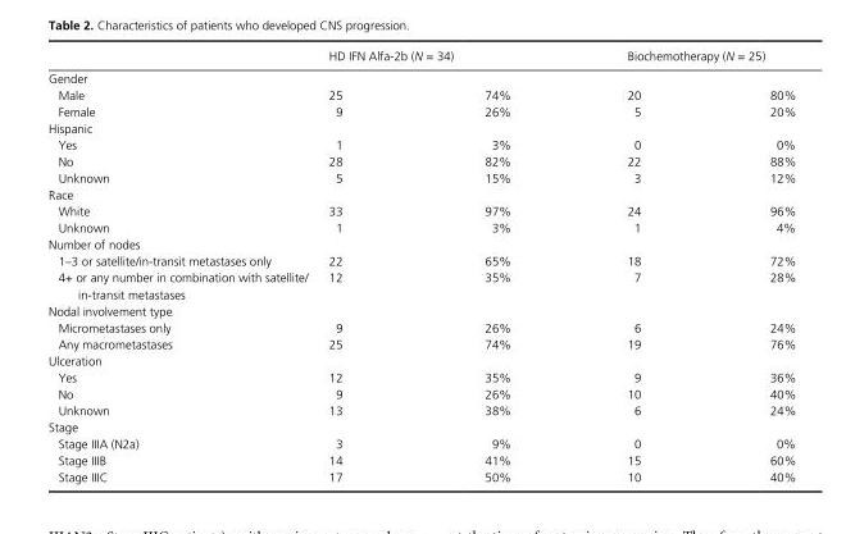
<table><thead><tr><td></td><td colspan="2">HD IFN Alfa- 2b (N = 34)</td><td colspan="2">Biochemotherapy (N = 25)</td></tr><tr><td colspan="5">Gender</td></tr><tr><td>Male</td><td>25</td><td>74%</td><td>20</td><td>80%</td></tr></thead><tbody><tr><td>Female</td><td>9</td><td>26%</td><td>5</td><td>20%</td></tr><tr><td colspan="5">Hispanic</td></tr><tr><td>Yes</td><td>1</td><td>3%</td><td>0</td><td>0%</td></tr><tr><td>No</td><td>28</td><td>82%</td><td>22</td><td>88%</td></tr><tr><td>Unknown</td><td>5</td><td>15%</td><td>3</td><td>12%</td></tr><tr><td colspan="5">Race</td></tr><tr><td>White</td><td>33</td><td>97%</td><td>24</td><td>96%</td></tr><tr><td>Unknown</td><td>1</td><td>3%</td><td>1</td><td>4%</td></tr><tr><td colspan="5">Number of nodes</td></tr><tr><td>1–3 or satellite/in- transit metastases only</td><td>22</td><td>65%</td><td>18</td><td>72%</td></tr><tr><td>4+ or any number in combination with satellite/ in- transit metastases</td><td>12</td><td>35%</td><td>7</td><td>28%</td></tr><tr><td colspan="5">Nodal involvement type</td></tr><tr><td>Micrometastases only</td><td>9</td><td>26%</td><td>6</td><td>24%</td></tr><tr><td>Any macrometastases</td><td>25</td><td>74%</td><td>19</td><td>76%</td></tr><tr><td colspan="5">Ulceration</td></tr><tr><td>Yes</td><td>12</td><td>35%</td><td>9</td><td>36%</td></tr><tr><td>No</td><td>9</td><td>26%</td><td>10</td><td>40%</td></tr><tr><td>Unknown</td><td>13</td><td>38%</td><td>6</td><td>24%</td></tr><tr><td colspan="5">Stage</td></tr><tr><td>Stage IIIA (N2a)</td><td>3</td><td>9%</td><td>0</td><td>0%</td></tr><tr><td>Stage IIIB</td><td>14</td><td>41%</td><td>15</td><td>60%</td></tr><tr><td>Stage IIIC</td><td>17</td><td>50%</td><td>10</td><td>40%</td></tr></tbody></table>